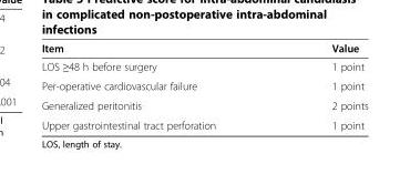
<table><thead><tr><td>Item</td><td>Value</td></tr></thead><tbody><tr><td>LOS ≥48 h before surgery</td><td>1 point</td></tr><tr><td>Per-operative cardiovascular failure</td><td>1 point</td></tr><tr><td>Generalized peritonitis</td><td>2 points</td></tr><tr><td>Upper gastrointestinal tract perforation</td><td>1 point</td></tr></tbody></table>